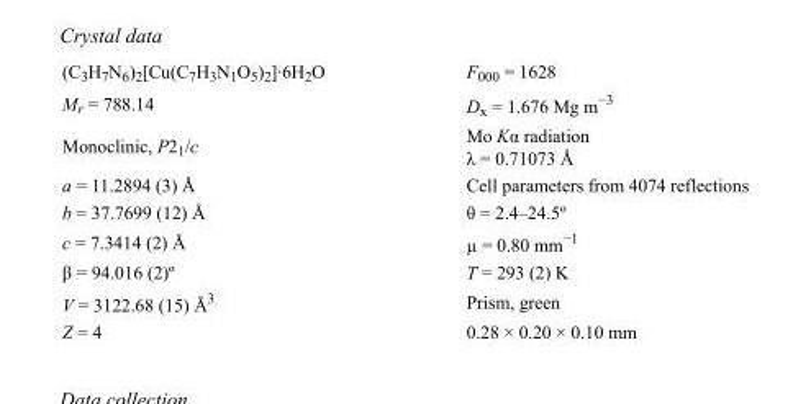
<table><tbody><tr><td>(C<sub>3</sub>H<sub>7</sub>N<sub>6</sub>)<sub>2</sub>[Cu(C<sub>7</sub>H<sub>3</sub>N<sub>1</sub>O<sub>5</sub>)<sub>2</sub>]·6H<sub>2</sub>O</td><td>F<sub>000</sub> = 1628</td></tr><tr><td>M<sub>r</sub> = 788.14</td><td>D<sub>x</sub> = 1.676 Mg m<sup>−3</sup></td></tr><tr><td>Monoclinic, P2<sub>1</sub>/c</td><td>Mo Kα radiation λ = 0.71073 Å</td></tr><tr><td>a = 11.2894 (3) Å</td><td>Cell parameters from 4074 reflections</td></tr><tr><td>b = 37.7699 (12) Å</td><td>θ = 2.4–24.5º</td></tr><tr><td>c = 7.3414 (2) Å</td><td>µ = 0.80 mm<sup>−1</sup></td></tr><tr><td>β = 94.016 (2)º</td><td>T = 293 (2) K</td></tr><tr><td>V = 3122.68 (15) Å<sup>3</sup></td><td>Prism, green</td></tr><tr><td>Z = 4</td><td>0.28 × 0.20 × 0.10 mm</td></tr></tbody></table>